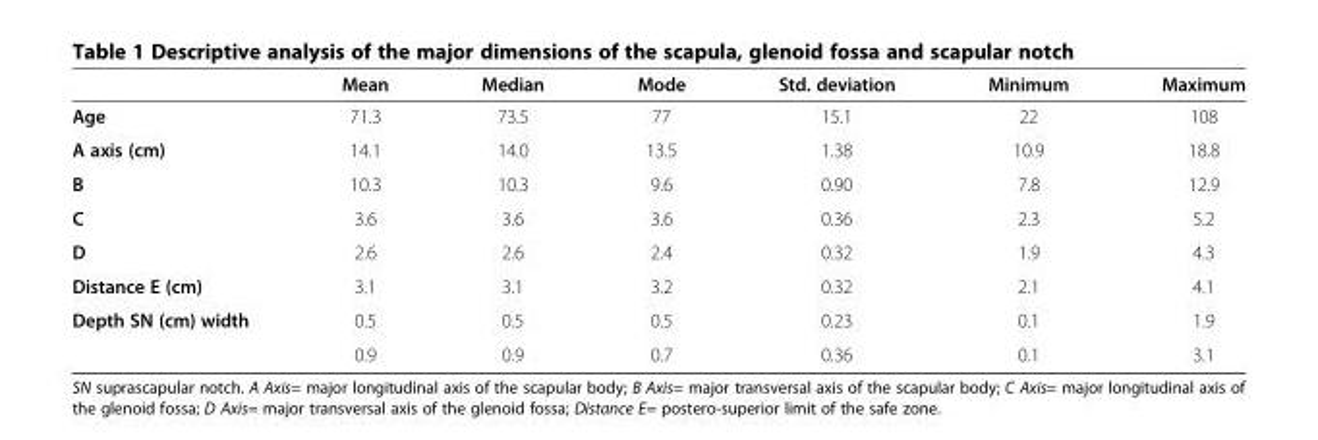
<table><thead><tr><td></td><td>Mean</td><td>Median</td><td>Mode</td><td>Std. deviation</td><td>Minimum</td><td>Maximum</td></tr></thead><tbody><tr><td>Age</td><td>71.3</td><td>73.5</td><td>77</td><td>15.1</td><td>22</td><td>108</td></tr><tr><td>A axis (cm)</td><td>14.1</td><td>14.0</td><td>13.5</td><td>1.38</td><td>10.9</td><td>18.8</td></tr><tr><td>B</td><td>10.3</td><td>10.3</td><td>9.6</td><td>0.90</td><td>7.8</td><td>12.9</td></tr><tr><td>C</td><td>3.6</td><td>3.6</td><td>3.6</td><td>0.36</td><td>2.3</td><td>5.2</td></tr><tr><td>D</td><td>2.6</td><td>2.6</td><td>2.4</td><td>0.32</td><td>1.9</td><td>4.3</td></tr><tr><td>Distance E (cm)</td><td>3.1</td><td>3.1</td><td>3.2</td><td>0.32</td><td>2.1</td><td>4.1</td></tr><tr><td rowspan="2">Depth SN (cm) width</td><td>0.5</td><td>0.5</td><td>0.5</td><td>0.23</td><td>0.1</td><td>1.9</td></tr><tr><td>0.9</td><td>0.9</td><td>0.7</td><td>0.36</td><td>0.1</td><td>3.1</td></tr></tbody></table>